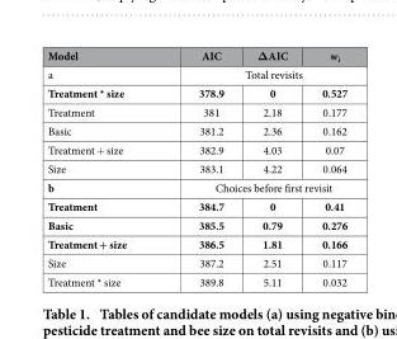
<table><thead><tr><td>Model</td><td>AIC</td><td>ΔAIC</td><td>w<sub>i</sub></td></tr></thead><tbody><tr><td>a</td><td colspan="3">Total revisits</td></tr><tr><td>Treatment * size</td><td>378.9</td><td>0</td><td>0.527</td></tr><tr><td>Treatment</td><td>381</td><td>2.18</td><td>0.177</td></tr><tr><td>Basic</td><td>381.2</td><td>2.36</td><td>0.162</td></tr><tr><td>Treatment + size</td><td>382.9</td><td>4.03</td><td>0.07</td></tr><tr><td>Size</td><td>383.1</td><td>4.22</td><td>0.064</td></tr><tr><td>b</td><td colspan="3">Choices before first revisit</td></tr><tr><td>Treatment</td><td>384.7</td><td>0</td><td>0.41</td></tr><tr><td>Basic</td><td>385.5</td><td>0.79</td><td>0.276</td></tr><tr><td>Treatment + size</td><td>386.5</td><td>1.81</td><td>0.166</td></tr><tr><td>Size</td><td>387.2</td><td>2.51</td><td>0.117</td></tr><tr><td>Treatment * size</td><td>389.8</td><td>5.11</td><td>0.032</td></tr></tbody></table>